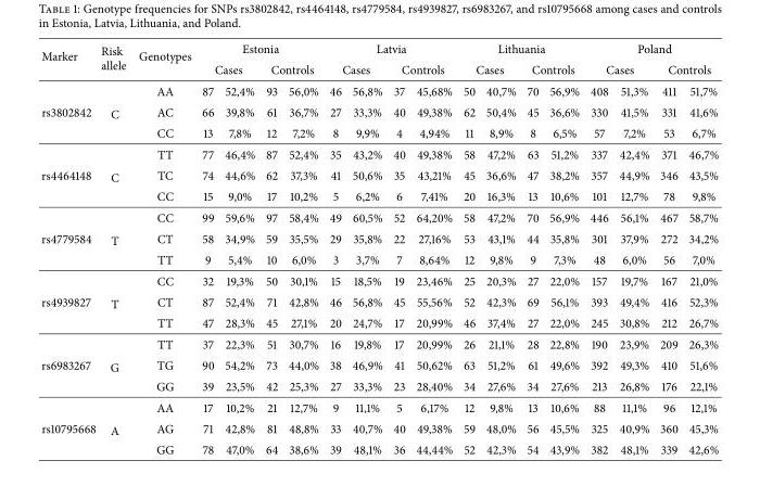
<table><thead><tr><td rowspan="3">Marker</td><td rowspan="3">Risk allele</td><td rowspan="3">Genotypes AA</td><td colspan="4">Estonia</td><td colspan="4">Latvia</td><td colspan="4">Lithuania</td><td colspan="4">Poland</td></tr><tr><td colspan="2">Cases</td><td colspan="2">Controls</td><td colspan="2">Cases</td><td colspan="2">Controls</td><td colspan="2">Cases</td><td colspan="2">Controls</td><td colspan="2">Cases</td><td colspan="2">Controls</td></tr><tr><td>87</td><td>52,4%</td><td>93</td><td>56,0%</td><td>46</td><td>56,8%</td><td>37</td><td>45,68%</td><td>50</td><td>40,7%</td><td>70</td><td>56,9%</td><td>408</td><td>51,3%</td><td>411</td><td>51,7%</td></tr></thead><tbody><tr><td rowspan="3">rs3802842</td><td>C</td><td>AC</td><td>66</td><td>39,8%</td><td>61</td><td>36,7%</td><td>27</td><td>33,3%</td><td>40</td><td>49,38%</td><td>62</td><td>50,4%</td><td>45</td><td>36,6%</td><td>330</td><td>41,5%</td><td>331</td><td>41,6%</td></tr><tr><td></td><td>CC</td><td>13</td><td>7,8%</td><td>12</td><td>7,2%</td><td>8</td><td>9,9%</td><td>4</td><td>4,94%</td><td>11</td><td>8,9%</td><td>8</td><td>6,5%</td><td>57</td><td>7,2%</td><td>53</td><td>6,7%</td></tr><tr><td></td><td>TT</td><td>77</td><td>46,4%</td><td>87</td><td>52,4%</td><td>35</td><td>43,2%</td><td>40</td><td>49,38%</td><td>58</td><td>47,2%</td><td>63</td><td>51,2%</td><td>337</td><td>42,4%</td><td>371</td><td>46,7%</td></tr><tr><td rowspan="3">rs4464148</td><td>C</td><td>TC</td><td>74</td><td>44,6%</td><td>62</td><td>37,3%</td><td>41</td><td>50,6%</td><td>35</td><td>43,21%</td><td>45</td><td>36,6%</td><td>47</td><td>38,2%</td><td>357</td><td>44,9%</td><td>346</td><td>43,5%</td></tr><tr><td></td><td>CC</td><td>15</td><td>9,0%</td><td>17</td><td>10,2%</td><td>5</td><td>6,2%</td><td>6</td><td>7,41%</td><td>20</td><td>16,3%</td><td>13</td><td>10,6%</td><td>101</td><td>12,7%</td><td>78</td><td>9,8%</td></tr><tr><td></td><td>CC</td><td>99</td><td>59,6%</td><td>97</td><td>58,4%</td><td>49</td><td>60,5%</td><td>52</td><td>64,20%</td><td>58</td><td>47,2%</td><td>70</td><td>56,9%</td><td>446</td><td>56,1%</td><td>467</td><td>58,7%</td></tr><tr><td rowspan="3">rs4779584</td><td>T</td><td>CT</td><td>58</td><td>34,9%</td><td>59</td><td>35,5%</td><td>29</td><td>35,8%</td><td>22</td><td>27,16%</td><td>53</td><td>43,1%</td><td>44</td><td>35,8%</td><td>301</td><td>37,9%</td><td>272</td><td>34,2%</td></tr><tr><td></td><td>TT</td><td>9</td><td>5,4%</td><td>10</td><td>6,0%</td><td>3</td><td>3,7%</td><td>7</td><td>8,64%</td><td>12</td><td>9,8%</td><td>9</td><td>7,3%</td><td>48</td><td>6,0%</td><td>56</td><td>7,0%</td></tr><tr><td></td><td>CC</td><td>32</td><td>19,3%</td><td>50</td><td>30,1%</td><td>15</td><td>18,5%</td><td>19</td><td>23,46%</td><td>25</td><td>20,3%</td><td>27</td><td>22,0%</td><td>157</td><td>19,7%</td><td>167</td><td>21,0%</td></tr><tr><td rowspan="3">rs4939827</td><td>T</td><td>CT</td><td>87</td><td>52,4%</td><td>71</td><td>42,8%</td><td>46</td><td>56,8%</td><td>45</td><td>55,56%</td><td>52</td><td>42,3%</td><td>69</td><td>56,1%</td><td>393</td><td>49,4%</td><td>416</td><td>52,3%</td></tr><tr><td></td><td>TT</td><td>47</td><td>28,3%</td><td>45</td><td>27,1%</td><td>20</td><td>24,7%</td><td>17</td><td>20,99%</td><td>46</td><td>37,4%</td><td>27</td><td>22,0%</td><td>245</td><td>30,8%</td><td>212</td><td>26,7%</td></tr><tr><td></td><td>TT</td><td>37</td><td>22,3%</td><td>51</td><td>30,7%</td><td>16</td><td>19,8%</td><td>17</td><td>20,99%</td><td>26</td><td>21,1%</td><td>28</td><td>22,8%</td><td>190</td><td>23,9%</td><td>209</td><td>26,3%</td></tr><tr><td rowspan="3">rs6983267</td><td>G</td><td>TG</td><td>90</td><td>54,2%</td><td>73</td><td>44,0%</td><td>38</td><td>46,9%</td><td>41</td><td>50,62%</td><td>63</td><td>51,2%</td><td>61</td><td>49,6%</td><td>392</td><td>49,3%</td><td>410</td><td>51,6%</td></tr><tr><td></td><td>GG</td><td>39</td><td>23,5%</td><td>42</td><td>25,3%</td><td>27</td><td>33,3%</td><td>23</td><td>28,40%</td><td>34</td><td>27,6%</td><td>34</td><td>27,6%</td><td>213</td><td>26,8%</td><td>176</td><td>22,1%</td></tr><tr><td></td><td>AA</td><td>17</td><td>10,2%</td><td>21</td><td>12,7%</td><td>9</td><td>11,1%</td><td>5</td><td>6,17%</td><td>12</td><td>9,8%</td><td>13</td><td>10,6%</td><td>88</td><td>11,1%</td><td>96</td><td>12,1%</td></tr><tr><td rowspan="2">rs10795668</td><td>A</td><td>AG</td><td>71</td><td>42,8%</td><td>81</td><td>48,8%</td><td>33</td><td>40,7%</td><td>40</td><td>49,38%</td><td>59</td><td>48,0%</td><td>56</td><td>45,5%</td><td>325</td><td>40,9%</td><td>360</td><td>45,3%</td></tr><tr><td></td><td>GG</td><td>78</td><td>47,0%</td><td>64</td><td>38,6%</td><td>39</td><td>48,1%</td><td>36</td><td>44,44%</td><td>52</td><td>42,3%</td><td>54</td><td>43,9%</td><td>382</td><td>48,1%</td><td>339</td><td>42,6%</td></tr></tbody></table>